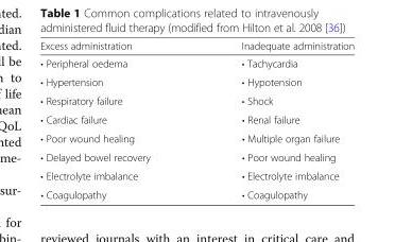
<table><thead><tr><td>Excess administration</td><td>Inadequate administration</td></tr></thead><tbody><tr><td>• Peripheral oedema</td><td>• Tachycardia</td></tr><tr><td>• Hypertension</td><td>• Hypotension</td></tr><tr><td>• Respiratory failure</td><td>• Shock</td></tr><tr><td>• Cardiac failure</td><td>• Renal failure</td></tr><tr><td>• Poor wound healing</td><td>• Multiple organ failure</td></tr><tr><td>• Delayed bowel recovery</td><td>• Poor wound healing</td></tr><tr><td>• Electrolyte imbalance</td><td>• Electrolyte imbalance</td></tr><tr><td>• Coagulopathy</td><td>• Coagulopathy</td></tr></tbody></table>